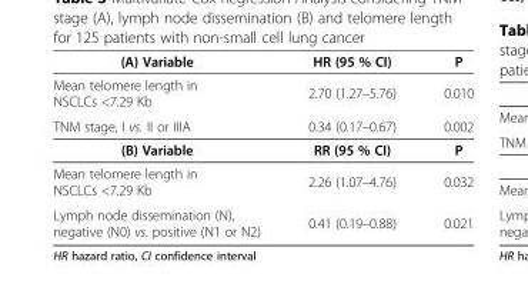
<table><thead><tr><td>(A) Variable</td><td>HR (95 % CI)</td><td>P</td></tr></thead><tbody><tr><td>Mean telomere length in NSCLCs &lt;7.29 Kb</td><td>2.70 (1.27–5.76)</td><td>0.010</td></tr><tr><td>TNM stage, I vs. II or IIIA</td><td>0.34 (0.17–0.67)</td><td>0.002</td></tr><tr><td>(B) Variable</td><td>RR (95 % CI)</td><td>P</td></tr><tr><td>Mean telomere length in NSCLCs &lt;7.29 Kb</td><td>2.26 (1.07–4.76)</td><td>0.032</td></tr><tr><td>Lymph node dissemination (N), negative (N0) vs. positive (N1 or N2)</td><td>0.41 (0.19–0.88)</td><td>0.021</td></tr></tbody></table>